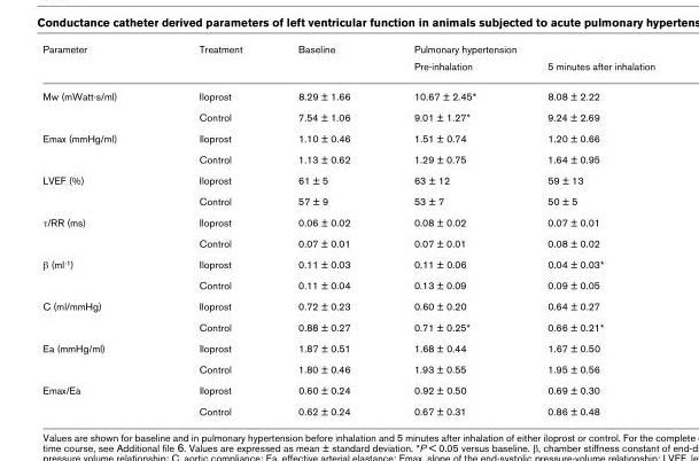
<table><thead><tr><td rowspan="2">Parameter</td><td rowspan="2">Treatment</td><td rowspan="2">Baseline</td><td colspan="2">Pulmonary hypertension</td></tr><tr><td>Pre-inhalation</td><td>5 minutes after inhalation</td></tr></thead><tbody><tr><td rowspan="2">Mw (mWatt·s/ml)</td><td>Iloprost</td><td>8.29 ± 1.66</td><td>10.67 ± 2.45*</td><td>8.08 ± 2.22</td></tr><tr><td>Control</td><td>7.54 ± 1.06</td><td>9.01 ± 1.27*</td><td>9.24 ± 2.69</td></tr><tr><td rowspan="2">Emax (mmHg/ml)</td><td>Iloprost</td><td>1.10 ± 0.46</td><td>1.51 ± 0.74</td><td>1.20 ± 0.66</td></tr><tr><td>Control</td><td>1.13 ± 0.62</td><td>1.29 ± 0.75</td><td>1.64 ± 0.95</td></tr><tr><td rowspan="2">LVEF (%)</td><td>Iloprost</td><td>61 ± 5</td><td>63 ± 12</td><td>59 ± 13</td></tr><tr><td>Control</td><td>57 ± 9</td><td>53 ± 7</td><td>50 ± 5</td></tr><tr><td rowspan="2">τ/RR (ms)</td><td>Iloprost</td><td>0.06 ± 0.02</td><td>0.08 ± 0.02</td><td>0.07 ± 0.01</td></tr><tr><td>Control</td><td>0.07 ± 0.01</td><td>0.07 ± 0.01</td><td>0.08 ± 0.02</td></tr><tr><td rowspan="2">β (ml<sup>-1</sup>)</td><td>Iloprost</td><td>0.11 ± 0.03</td><td>0.11 ± 0.06</td><td>0.04 ± 0.03*</td></tr><tr><td>Control</td><td>0.11 ± 0.04</td><td>0.13 ± 0.09</td><td>0.09 ± 0.05</td></tr><tr><td rowspan="2">C (ml/mmHg)</td><td>Iloprost</td><td>0.72 ± 0.23</td><td>0.60 ± 0.20</td><td>0.64 ± 0.27</td></tr><tr><td>Control</td><td>0.88 ± 0.27</td><td>0.71 ± 0.25*</td><td>0.66 ± 0.21*</td></tr><tr><td rowspan="2">Ea (mmHg/ml)</td><td>Iloprost</td><td>1.87 ± 0.51</td><td>1.68 ± 0.44</td><td>1.67 ± 0.50</td></tr><tr><td>Control</td><td>1.80 ± 0.46</td><td>1.93 ± 0.55</td><td>1.95 ± 0.56</td></tr><tr><td rowspan="2">Emax/Ea</td><td>Iloprost</td><td>0.60 ± 0.24</td><td>0.92 ± 0.50</td><td>0.69 ± 0.30</td></tr><tr><td>Control</td><td>0.62 ± 0.24</td><td>0.67 ± 0.31</td><td>0.86 ± 0.48</td></tr></tbody></table>